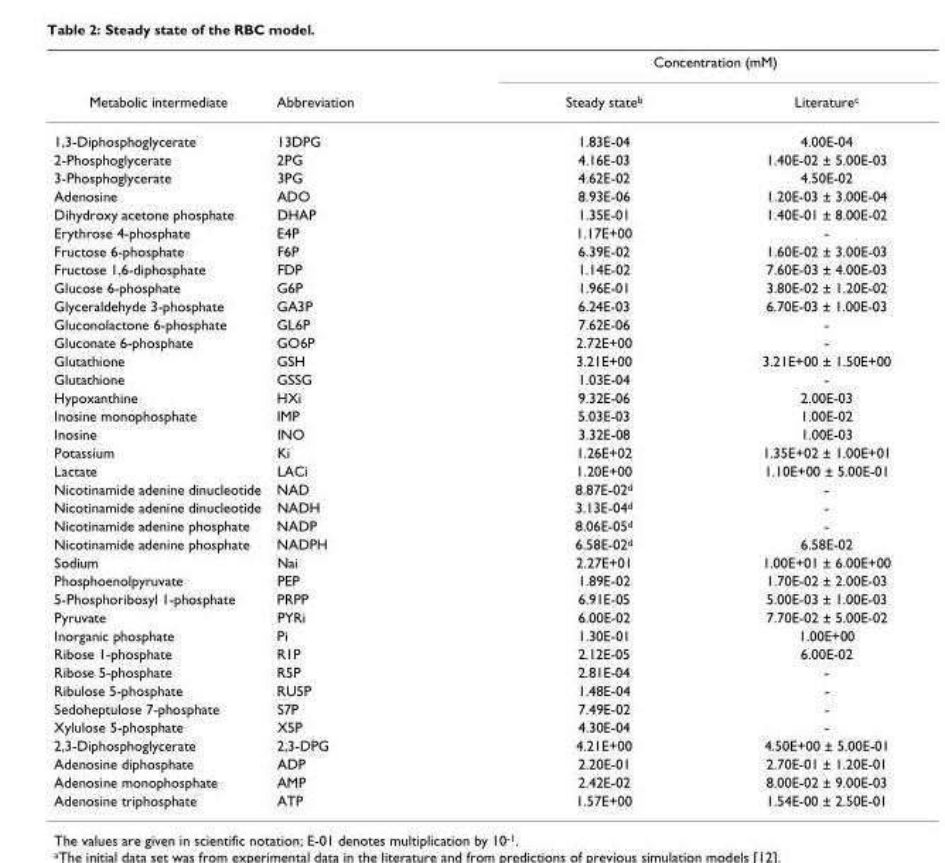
<table><thead><tr><td rowspan="2">Metabolic intermediate</td><td rowspan="2">Abbreviation</td><td colspan="2">Concentration (mM)</td></tr><tr><td>Steady state<sup>b</sup></td><td>Literature<sup>c</sup></td></tr></thead><tbody><tr><td>1,3-Diphosphoglycerate</td><td>13DPG</td><td>1.83E-04</td><td>4.00E-04</td></tr><tr><td>2-Phosphoglycerate</td><td>2PG</td><td>4.16E-03</td><td>1.40E-02 ± 5.00E-03</td></tr><tr><td>3-Phosphoglycerate</td><td>3PG</td><td>4.62E-02</td><td>4.50E-02</td></tr><tr><td>Adenosine</td><td>ADO</td><td>8.93E-06</td><td>1.20E-03 ± 3.00E-04</td></tr><tr><td>Dihydroxy acetone phosphate</td><td>DHAP</td><td>1.35E-01</td><td>1.40E-01 ± 8.00E-02</td></tr><tr><td>Erythrose 4-phosphate</td><td>E4P</td><td>1.17E+00</td><td>-</td></tr><tr><td>Fructose 6-phosphate</td><td>F6P</td><td>6.39E-02</td><td>1.60E-02 ± 3.00E-03</td></tr><tr><td>Fructose 1,6-diphosphate</td><td>FDP</td><td>1.14E-02</td><td>7.60E-03 ± 4.00E-03</td></tr><tr><td>Glucose 6-phosphate</td><td>G6P</td><td>1.96E-01</td><td>3.80E-02 ± 1.20E-02</td></tr><tr><td>Glyceraldehyde 3-phosphate</td><td>GA3P</td><td>6.24E-03</td><td>6.70E-03 ± 1.00E-03</td></tr><tr><td>Gluconolactone 6-phosphate</td><td>GL6P</td><td>7.62E-06</td><td>-</td></tr><tr><td>Gluconate 6-phosphate</td><td>GO6P</td><td>2.72E+00</td><td>-</td></tr><tr><td>Glutathione</td><td>GSH</td><td>3.21E+00</td><td>3.21E+00 ± 1.50E+00</td></tr><tr><td>Glutathione</td><td>GSSG</td><td>1.03E-04</td><td>-</td></tr><tr><td>Hypoxanthine</td><td>HXi</td><td>9.32E-06</td><td>2.00E-03</td></tr><tr><td>Inosine monophosphate</td><td>IMP</td><td>5.03E-03</td><td>1.00E-02</td></tr><tr><td>Inosine</td><td>INO</td><td>3.32E-08</td><td>1.00E-03</td></tr><tr><td>Potassium</td><td>Ki</td><td>1.26E+02</td><td>1.35E+02 ± 1.00E+01</td></tr><tr><td>Lactate</td><td>LACi</td><td>1.20E+00</td><td>1.10E+00 ± 5.00E-01</td></tr><tr><td>Nicotinamide adenine dinucleotide</td><td>NAD</td><td>8.87E-02<sup>d</sup></td><td>-</td></tr><tr><td>Nicotinamide adenine dinucleotide</td><td>NADH</td><td>3.13E-04<sup>d</sup></td><td>-</td></tr><tr><td>Nicotinamide adenine phosphate</td><td>NADP</td><td>8.06E-05<sup>d</sup></td><td>-</td></tr><tr><td>Nicotinamide adenine phosphate</td><td>NADPH</td><td>6.58E-02<sup>d</sup></td><td>6.58E-02</td></tr><tr><td>Sodium</td><td>Nai</td><td>2.27E+01</td><td>1.00E+01 ± 6.00E+00</td></tr><tr><td>Phosphoenolpyruvate</td><td>PEP</td><td>1.89E-02</td><td>1.70E-02 ± 2.00E-03</td></tr><tr><td>5-Phosphoribosyl 1-phosphate</td><td>PRPP</td><td>6.91E-05</td><td>5.00E-03 ± 1.00E-03</td></tr><tr><td>Pyruvate</td><td>PYRi</td><td>6.00E-02</td><td>7.70E-02 ± 5.00E-02</td></tr><tr><td>Inorganic phosphate</td><td>Pi</td><td>1.30E-01</td><td>1.00E+00</td></tr><tr><td>Ribose 1-phosphate</td><td>R1P</td><td>2.12E-05</td><td>6.00E-02</td></tr><tr><td>Ribose 5-phosphate</td><td>R5P</td><td>2.81E-04</td><td>-</td></tr><tr><td>Ribulose 5-phosphate</td><td>RU5P</td><td>1.48E-04</td><td>-</td></tr><tr><td>Sedoheptulose 7-phosphate</td><td>S7P</td><td>7.49E-02</td><td>-</td></tr><tr><td>Xylulose 5-phosphate</td><td>X5P</td><td>4.30E-04</td><td>-</td></tr><tr><td>2,3-Diphosphoglycerate</td><td>2,3-DPG</td><td>4.21E+00</td><td>4.50E+00 ± 5.00E-01</td></tr><tr><td>Adenosine diphosphate</td><td>ADP</td><td>2.20E-01</td><td>2.70E-01 ± 1.20E-01</td></tr><tr><td>Adenosine monophosphate</td><td>AMP</td><td>2.42E-02</td><td>8.00E-02 ± 9.00E-03</td></tr><tr><td>Adenosine triphosphate</td><td>ATP</td><td>1.57E+00</td><td>1.54E-00 ± 2.50E-01</td></tr></tbody></table>